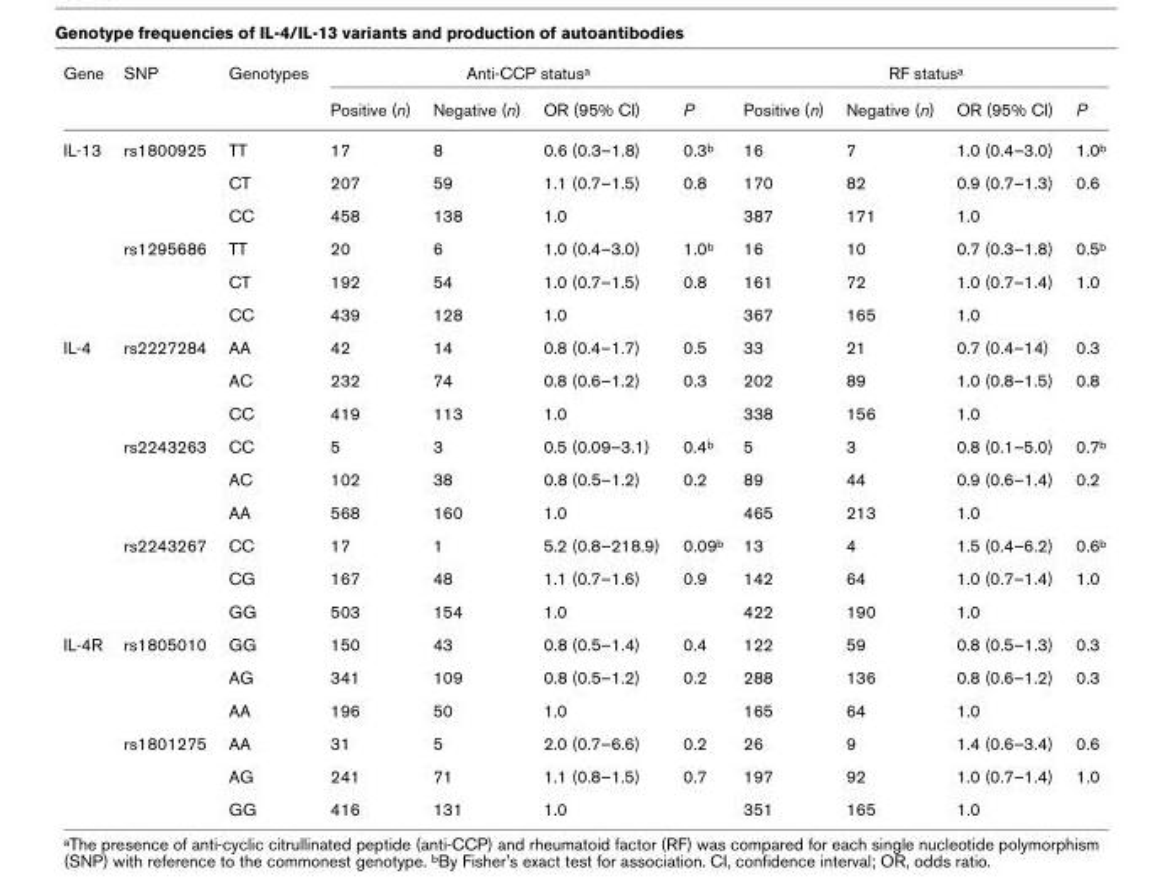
<table><thead><tr><td rowspan="2">Gene</td><td rowspan="2">SNP</td><td rowspan="2">Genotypes</td><td colspan="4">Anti-CCP status<sup>a</sup></td><td colspan="4">RF status<sup>a</sup></td></tr><tr><td>Positive (n)</td><td>Negative (n)</td><td>OR (95% CI)</td><td>P</td><td>Positive (n)</td><td>Negative (n)</td><td>OR (95% CI)</td><td>P</td></tr></thead><tbody><tr><td rowspan="6">IL-13</td><td>rs1800925</td><td>TT</td><td>17</td><td>8</td><td>0.6 (0.3–1.8)</td><td>0.3<sup>b</sup></td><td>16</td><td>7</td><td>1.0 (0.4–3.0)</td><td>1.0<sup>b</sup></td></tr><tr><td></td><td>CT</td><td>207</td><td>59</td><td>1.1 (0.7–1.5)</td><td>0.8</td><td>170</td><td>82</td><td>0.9 (0.7–1.3)</td><td>0.6</td></tr><tr><td></td><td>CC</td><td>458</td><td>138</td><td>1.0</td><td></td><td>387</td><td>171</td><td>1.0</td><td></td></tr><tr><td>rs1295686</td><td>TT</td><td>20</td><td>6</td><td>1.0 (0.4–3.0)</td><td>1.0<sup>b</sup></td><td>16</td><td>10</td><td>0.7 (0.3–1.8)</td><td>0.5<sup>b</sup></td></tr><tr><td></td><td>CT</td><td>192</td><td>54</td><td>1.0 (0.7–1.5)</td><td>0.8</td><td>161</td><td>72</td><td>1.0 (0.7–1.4)</td><td>1.0</td></tr><tr><td></td><td>CC</td><td>439</td><td>128</td><td>1.0</td><td></td><td>367</td><td>165</td><td>1.0</td><td></td></tr><tr><td rowspan="9">IL-4</td><td>rs2227284</td><td>AA</td><td>42</td><td>14</td><td>0.8 (0.4–1.7)</td><td>0.5</td><td>33</td><td>21</td><td>0.7 (0.4–14)</td><td>0.3</td></tr><tr><td></td><td>AC</td><td>232</td><td>74</td><td>0.8 (0.6–1.2)</td><td>0.3</td><td>202</td><td>89</td><td>1.0 (0.8–1.5)</td><td>0.8</td></tr><tr><td></td><td>CC</td><td>419</td><td>113</td><td>1.0</td><td></td><td>338</td><td>156</td><td>1.0</td><td></td></tr><tr><td>rs2243263</td><td>CC</td><td>5</td><td>3</td><td>0.5 (0.09–3.1)</td><td>0.4<sup>b</sup></td><td>5</td><td>3</td><td>0.8 (0.1–5.0)</td><td>0.7<sup>b</sup></td></tr><tr><td></td><td>AC</td><td>102</td><td>38</td><td>0.8 (0.5–1.2)</td><td>0.2</td><td>89</td><td>44</td><td>0.9 (0.6–1.4)</td><td>0.2</td></tr><tr><td></td><td>AA</td><td>568</td><td>160</td><td>1.0</td><td></td><td>465</td><td>213</td><td>1.0</td><td></td></tr><tr><td>rs2243267</td><td>CC</td><td>17</td><td>1</td><td>5.2 (0.8–218.9)</td><td>0.09<sup>b</sup></td><td>13</td><td>4</td><td>1.5 (0.4–6.2)</td><td>0.6<sup>b</sup></td></tr><tr><td></td><td>CG</td><td>167</td><td>48</td><td>1.1 (0.7–1.6)</td><td>0.9</td><td>142</td><td>64</td><td>1.0 (0.7–1.4)</td><td>1.0</td></tr><tr><td></td><td>GG</td><td>503</td><td>154</td><td>1.0</td><td></td><td>422</td><td>190</td><td>1.0</td><td></td></tr><tr><td rowspan="6">IL-4R</td><td>rs1805010</td><td>GG</td><td>150</td><td>43</td><td>0.8 (0.5–1.4)</td><td>0.4</td><td>122</td><td>59</td><td>0.8 (0.5–1.3)</td><td>0.3</td></tr><tr><td></td><td>AG</td><td>341</td><td>109</td><td>0.8 (0.5–1.2)</td><td>0.2</td><td>288</td><td>136</td><td>0.8 (0.6–1.2)</td><td>0.3</td></tr><tr><td></td><td>AA</td><td>196</td><td>50</td><td>1.0</td><td></td><td>165</td><td>64</td><td>1.0</td><td></td></tr><tr><td>rs1801275</td><td>AA</td><td>31</td><td>5</td><td>2.0 (0.7–6.6)</td><td>0.2</td><td>26</td><td>9</td><td>1.4 (0.6–3.4)</td><td>0.6</td></tr><tr><td></td><td>AG</td><td>241</td><td>71</td><td>1.1 (0.8–1.5)</td><td>0.7</td><td>197</td><td>92</td><td>1.0 (0.7–1.4)</td><td>1.0</td></tr><tr><td></td><td>GG</td><td>416</td><td>131</td><td>1.0</td><td></td><td>351</td><td>165</td><td>1.0</td><td></td></tr></tbody></table>